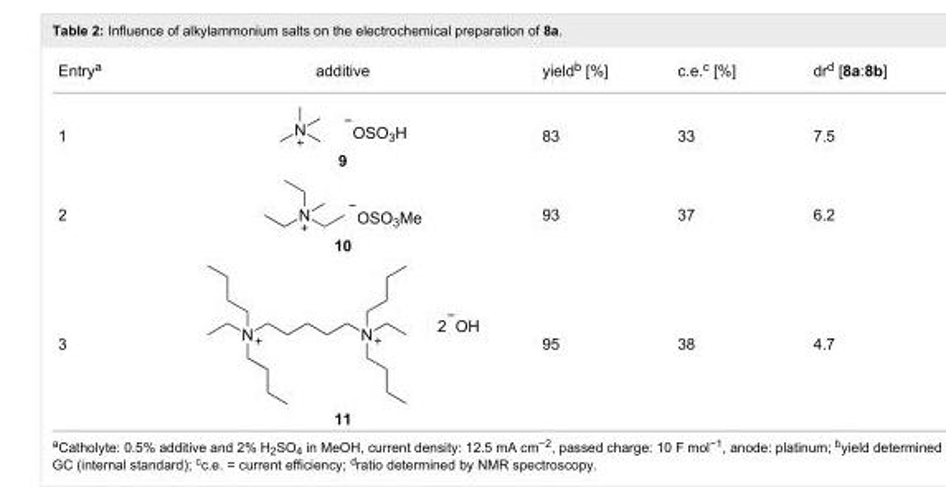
<table><tbody><tr><td>Entry<sup>a</sup></td><td>additive</td><td>yield<sup>b</sup> [%]</td><td>c.e.<sup>c</sup> [%]</td><td>dr<sup>d</sup> [8a:8b]</td></tr><tr><td>1</td><td>9</td><td>83</td><td>33</td><td>7.5</td></tr><tr><td>2</td><td>10</td><td>93</td><td>37</td><td>6.2</td></tr><tr><td>3</td><td>11</td><td>95</td><td>38</td><td>4.7</td></tr></tbody></table>